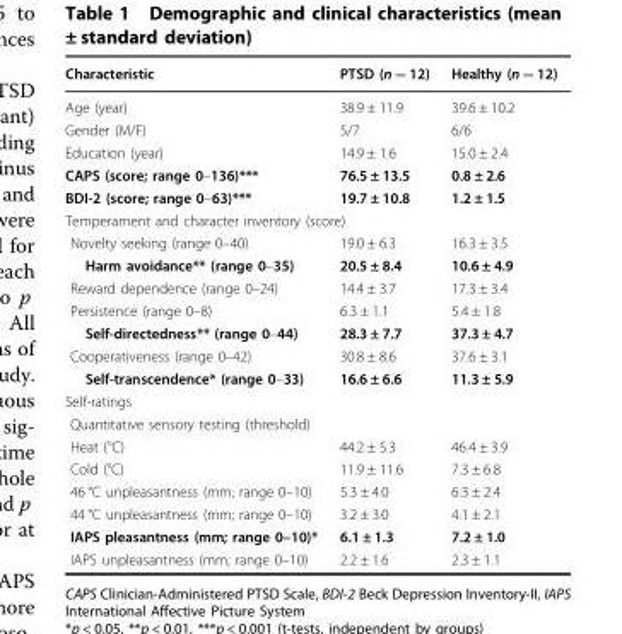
<table><thead><tr><td>Characteristic</td><td>PTSD (n = 12)</td><td>Healthy (n = 12)</td></tr></thead><tbody><tr><td>Age (year)</td><td>38.9 ± 11.9</td><td>39.6 ± 10.2</td></tr><tr><td>Gender (M/F)</td><td>5/7</td><td>6/6</td></tr><tr><td>Education (year)</td><td>14.9 ± 1.6</td><td>15.0 ± 2.4</td></tr><tr><td>CAPS (score; range 0–136)***</td><td>76.5 ± 13.5</td><td>0.8 ± 2.6</td></tr><tr><td>BDI-2 (score; range 0–63)***</td><td>19.7 ± 10.8</td><td>1.2 ± 1.5</td></tr><tr><td colspan="3">Temperament and character inventory (score)</td></tr><tr><td>Novelty seeking (range 0–40)</td><td>19.0 ± 6.3</td><td>16.3 ± 3.5</td></tr><tr><td>Harm avoidance** (range 0–35)</td><td>20.5 ± 8.4</td><td>10.6 ± 4.9</td></tr><tr><td>Reward dependence (range 0–24)</td><td>14.4 ± 3.7</td><td>17.3 ± 3.4</td></tr><tr><td>Persistence (range 0–8)</td><td>6.3 ± 1.1</td><td>5.4 ± 1.8</td></tr><tr><td>Self-directedness** (range 0–44)</td><td>28.3 ± 7.7</td><td>37.3 ± 4.7</td></tr><tr><td>Cooperativeness (range 0–42)</td><td>30.8 ± 8.6</td><td>37.6 ± 3.1</td></tr><tr><td>Self-transcendence* (range 0–33)</td><td>16.6 ± 6.6</td><td>11.3 ± 5.9</td></tr><tr><td colspan="3">Self-ratings</td></tr><tr><td colspan="3">Quantitative sensory testing (threshold)</td></tr><tr><td>Heat (°C)</td><td>44.2 ± 5.3</td><td>46.4 ± 3.9</td></tr><tr><td>Cold (°C)</td><td>11.9 ± 11.6</td><td>7.3 ± 6.8</td></tr><tr><td>46 °C unpleasantness (mm; range 0–10)</td><td>5.3 ± 4.0</td><td>6.3 ± 2.4</td></tr><tr><td>44 °C unpleasantness (mm; range 0–10)</td><td>3.2 ± 3.0</td><td>4.1 ± 2.1</td></tr><tr><td>IAPS pleasantness (mm; range 0–10)*</td><td>6.1 ± 1.3</td><td>7.2 ± 1.0</td></tr><tr><td>IAPS unpleasantness (mm; range 0–10)</td><td>2.2 ± 1.6</td><td>2.3 ± 1.1</td></tr></tbody></table>